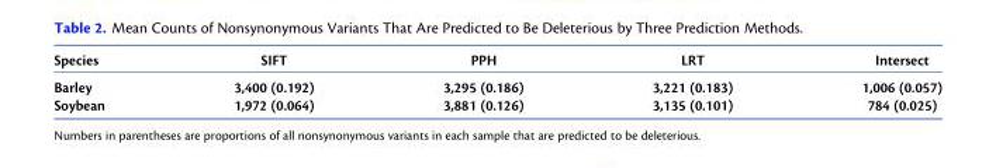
<table><thead><tr><td>Species</td><td>SIFT</td><td>PPH</td><td>LRT</td><td>Intersect</td></tr></thead><tbody><tr><td>Barley</td><td>3,400 (0.192)</td><td>3,295 (0.186)</td><td>3,221 (0.183)</td><td>1,006 (0.057)</td></tr><tr><td>Soybean</td><td>1,972 (0.064)</td><td>3,881 (0.126)</td><td>3,135 (0.101)</td><td>784 (0.025)</td></tr></tbody></table>